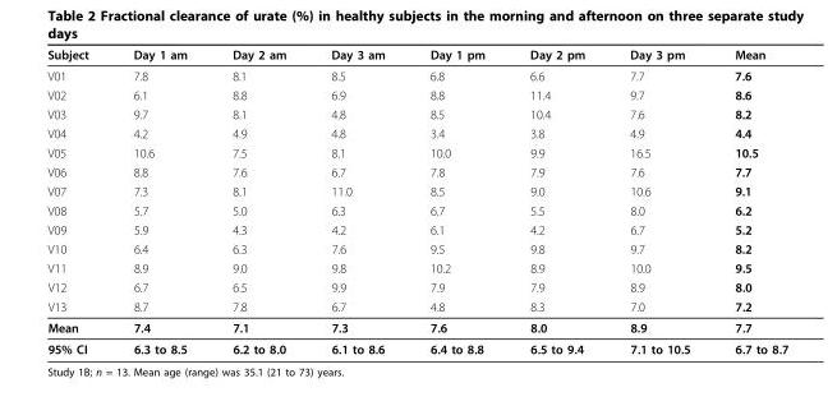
<table><thead><tr><td>Subject</td><td>Day 1 am</td><td>Day 2 am</td><td>Day 3 am</td><td>Day 1 pm</td><td>Day 2 pm</td><td>Day 3 pm</td><td>Mean</td></tr></thead><tbody><tr><td>V01</td><td>7.8</td><td>8.1</td><td>8.5</td><td>6.8</td><td>6.6</td><td>7.7</td><td>7.6</td></tr><tr><td>V02</td><td>6.1</td><td>8.8</td><td>6.9</td><td>8.8</td><td>11.4</td><td>9.7</td><td>8.6</td></tr><tr><td>V03</td><td>9.7</td><td>8.1</td><td>4.8</td><td>8.5</td><td>10.4</td><td>7.6</td><td>8.2</td></tr><tr><td>V04</td><td>4.2</td><td>4.9</td><td>4.8</td><td>3.4</td><td>3.8</td><td>4.9</td><td>4.4</td></tr><tr><td>V05</td><td>10.6</td><td>7.5</td><td>8.1</td><td>10.0</td><td>9.9</td><td>16.5</td><td>10.5</td></tr><tr><td>V06</td><td>8.8</td><td>7.6</td><td>6.7</td><td>7.8</td><td>7.9</td><td>7.6</td><td>7.7</td></tr><tr><td>V07</td><td>7.3</td><td>8.1</td><td>11.0</td><td>8.5</td><td>9.0</td><td>10.6</td><td>9.1</td></tr><tr><td>V08</td><td>5.7</td><td>5.0</td><td>6.3</td><td>6.7</td><td>5.5</td><td>8.0</td><td>6.2</td></tr><tr><td>V09</td><td>5.9</td><td>4.3</td><td>4.2</td><td>6.1</td><td>4.2</td><td>6.7</td><td>5.2</td></tr><tr><td>V10</td><td>6.4</td><td>6.3</td><td>7.6</td><td>9.5</td><td>9.8</td><td>9.7</td><td>8.2</td></tr><tr><td>V11</td><td>8.9</td><td>9.0</td><td>9.8</td><td>10.2</td><td>8.9</td><td>10.0</td><td>9.5</td></tr><tr><td>V12</td><td>6.7</td><td>6.5</td><td>9.9</td><td>7.9</td><td>7.9</td><td>8.9</td><td>8.0</td></tr><tr><td>V13</td><td>8.7</td><td>7.8</td><td>6.7</td><td>4.8</td><td>8.3</td><td>7.0</td><td>7.2</td></tr><tr><td>Mean</td><td>7.4</td><td>7.1</td><td>7.3</td><td>7.6</td><td>8.0</td><td>8.9</td><td>7.7</td></tr><tr><td>95% CI</td><td>6.3 to 8.5</td><td>6.2 to 8.0</td><td>6.1 to 8.6</td><td>6.4 to 8.8</td><td>6.5 to 9.4</td><td>7.1 to 10.5</td><td>6.7 to 8.7</td></tr></tbody></table>